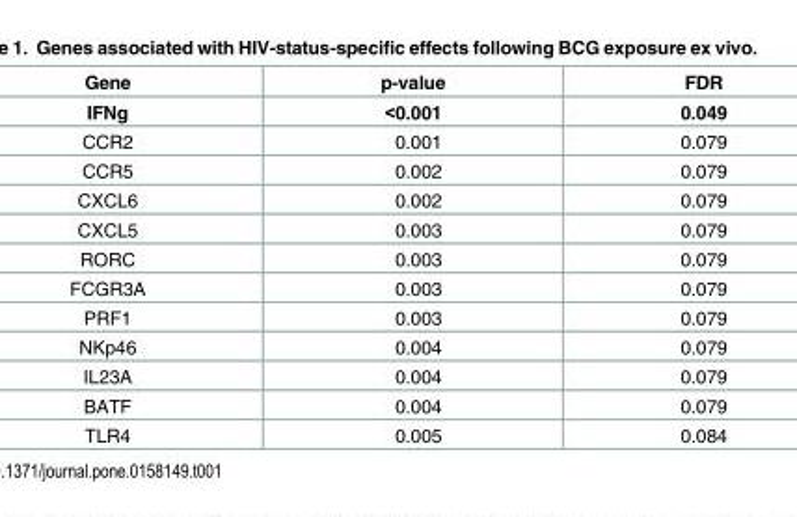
<table><thead><tr><td>Gene</td><td>p-value</td><td>FDR</td></tr></thead><tbody><tr><td>IFNg</td><td>&lt;0.001</td><td>0.049</td></tr><tr><td>CCR2</td><td>0.001</td><td>0.079</td></tr><tr><td>CCR5</td><td>0.002</td><td>0.079</td></tr><tr><td>CXCL6</td><td>0.002</td><td>0.079</td></tr><tr><td>CXCL5</td><td>0.003</td><td>0.079</td></tr><tr><td>RORC</td><td>0.003</td><td>0.079</td></tr><tr><td>FCGR3A</td><td>0.003</td><td>0.079</td></tr><tr><td>PRF1</td><td>0.003</td><td>0.079</td></tr><tr><td>NKp46</td><td>0.004</td><td>0.079</td></tr><tr><td>IL23A</td><td>0.004</td><td>0.079</td></tr><tr><td>BATF</td><td>0.004</td><td>0.079</td></tr><tr><td>TLR4</td><td>0.005</td><td>0.084</td></tr></tbody></table>